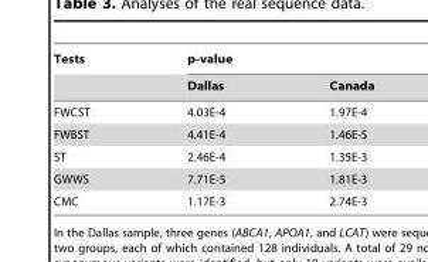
<table><thead><tr><td rowspan="2">Tests</td><td colspan="2">p-value</td></tr><tr><td>Dallas</td><td>Canada</td></tr></thead><tbody><tr><td>FWCST</td><td>4.03E-4</td><td>1.97E-4</td></tr><tr><td>FWBST</td><td>4.41E-4</td><td>1.46E-5</td></tr><tr><td>ST</td><td>2.46E-4</td><td>1.35E-3</td></tr><tr><td>GWWS</td><td>7.71E-5</td><td>1.81E-3</td></tr><tr><td>CMC</td><td>1.17E-3</td><td>2.74E-3</td></tr></tbody></table>